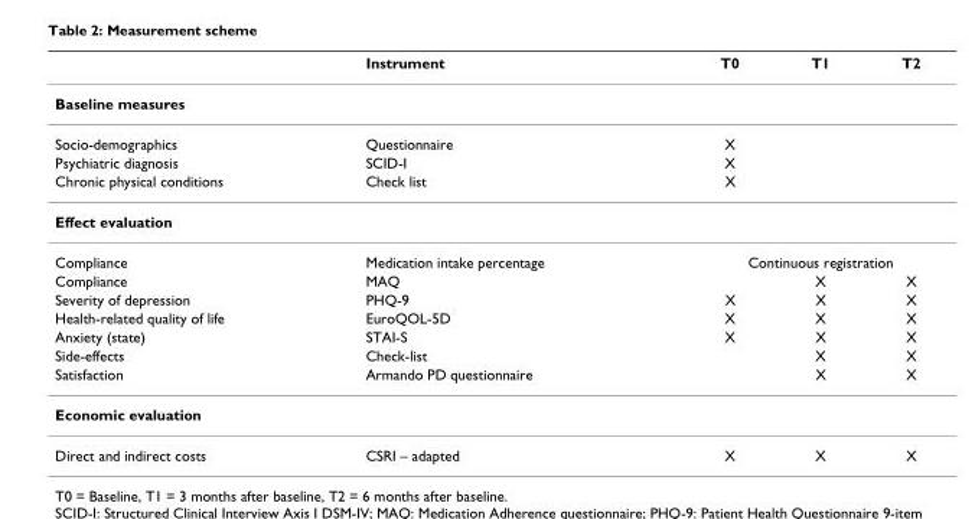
<table><thead><tr><td></td><td>Instrument</td><td>T0</td><td>T1</td><td>T2</td></tr></thead><tbody><tr><td colspan="5">Baseline measures</td></tr><tr><td>Socio-demographics</td><td>Questionnaire</td><td>X</td><td></td><td></td></tr><tr><td>Psychiatric diagnosis</td><td>SCID-I</td><td>X</td><td></td><td></td></tr><tr><td>Chronic physical conditions</td><td>Check list</td><td>X</td><td></td><td></td></tr><tr><td colspan="5">Effect evaluation</td></tr><tr><td>Compliance</td><td>Medication intake percentage</td><td colspan="3">Continuous registration</td></tr><tr><td>Compliance</td><td>MAQ</td><td></td><td>X</td><td>X</td></tr><tr><td>Severity of depression</td><td>PHQ-9</td><td>X</td><td>X</td><td>X</td></tr><tr><td>Health-related quality of life</td><td>EuroQOL-5D</td><td>X</td><td>X</td><td>X</td></tr><tr><td>Anxiety (state)</td><td>STAI-S</td><td>X</td><td>X</td><td>X</td></tr><tr><td>Side-effects</td><td>Check-list</td><td></td><td>X</td><td>X</td></tr><tr><td>Satisfaction</td><td>Armando PD questionnaire</td><td></td><td>X</td><td>X</td></tr><tr><td colspan="5">Economic evaluation</td></tr><tr><td>Direct and indirect costs</td><td>CSRI – adapted</td><td>X</td><td>X</td><td>X</td></tr></tbody></table>